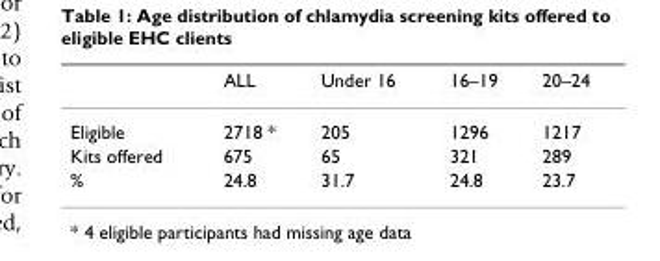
<table><thead><tr><td></td><td>ALL</td><td>Under 16</td><td>16–19</td><td>20–24</td></tr></thead><tbody><tr><td>Eligible</td><td>2718 *</td><td>205</td><td>1296</td><td>1217</td></tr><tr><td>Kits offered</td><td>675</td><td>65</td><td>321</td><td>289</td></tr><tr><td>%</td><td>24.8</td><td>31.7</td><td>24.8</td><td>23.7</td></tr></tbody></table>